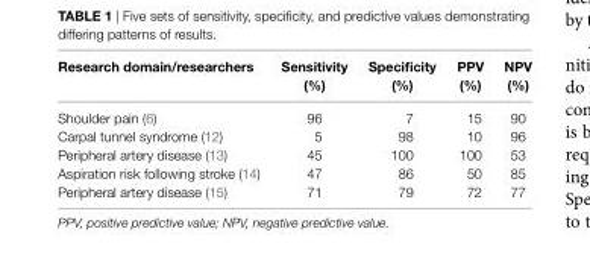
<table><thead><tr><td>research domain/researchers</td><td>sensitivity (%)</td><td>specificity (%)</td><td>PPv (%)</td><td>NPv (%)</td></tr></thead><tbody><tr><td>Shoulder pain (6)</td><td>96</td><td>7</td><td>15</td><td>90</td></tr><tr><td>Carpal tunnel syndrome (12)</td><td>5</td><td>98</td><td>10</td><td>96</td></tr><tr><td>Peripheral artery disease (13)</td><td>45</td><td>100</td><td>100</td><td>53</td></tr><tr><td>Aspiration risk following stroke (14)</td><td>47</td><td>86</td><td>50</td><td>85</td></tr><tr><td>Peripheral artery disease (15)</td><td>71</td><td>79</td><td>72</td><td>77</td></tr></tbody></table>